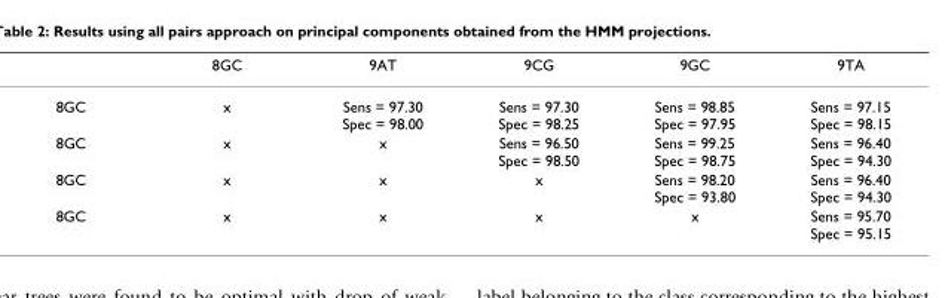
<table><thead><tr><td></td><td>8GC</td><td>9AT</td><td>9CG</td><td>9GC</td><td>9TA</td></tr></thead><tbody><tr><td>8GC</td><td>x</td><td>Sens = 97.30 Spec = 98.00</td><td>Sens = 97.30 Spec = 98.25</td><td>Sens = 98.85 Spec = 97.95</td><td>Sens = 97.15 Spec = 98.15</td></tr><tr><td>8GC</td><td>x</td><td>x</td><td>Sens = 96.50 Spec = 98.50</td><td>Sens = 99.25 Spec = 98.75</td><td>Sens = 96.40 Spec = 94.30</td></tr><tr><td>8GC</td><td>x</td><td>x</td><td>x</td><td>Sens = 98.20 Spec = 93.80</td><td>Sens = 96.40 Spec = 94.30</td></tr><tr><td>8GC</td><td>x</td><td>x</td><td>x</td><td>x</td><td>Sens = 95.70 Spec = 95.15</td></tr></tbody></table>